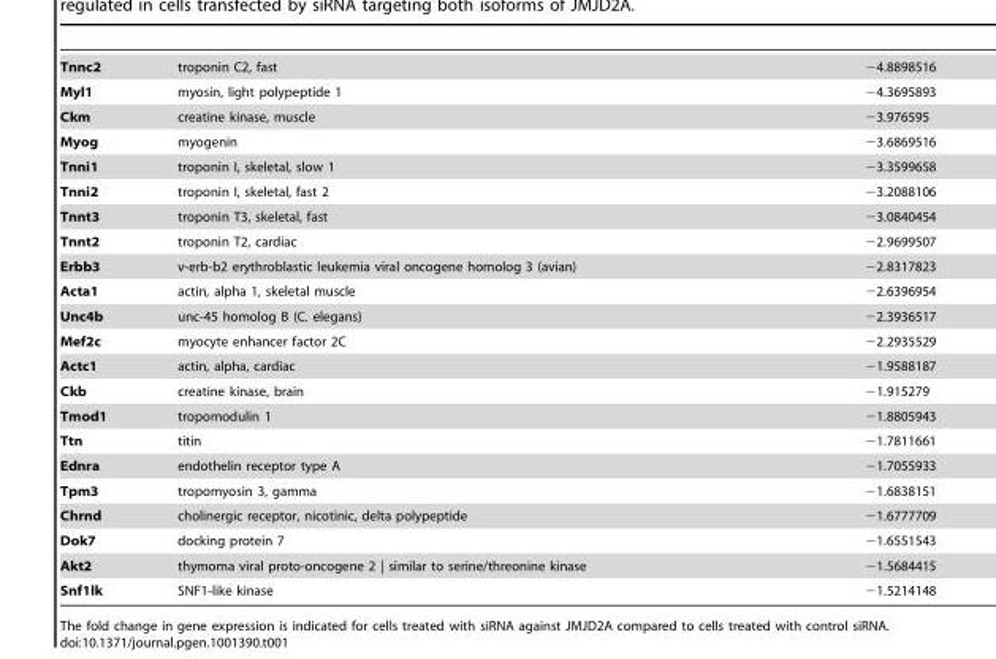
<table><tbody><tr><td>Tnnc2</td><td>troponin C2, fast</td><td>−4.8898516</td></tr><tr><td>Myl1</td><td>myosin, light polypeptide 1</td><td>−4.3695893</td></tr><tr><td>Ckm</td><td>creatine kinase, muscle</td><td>−3.976595</td></tr><tr><td>Myog</td><td>myogenin</td><td>−3.6869516</td></tr><tr><td>Tnni1</td><td>troponin I, skeletal, slow 1</td><td>−3.3599658</td></tr><tr><td>Tnni2</td><td>troponin I, skeletal, fast 2</td><td>−3.2088106</td></tr><tr><td>Tnnt3</td><td>troponin T3, skeletal, fast</td><td>−3.0840454</td></tr><tr><td>Tnnt2</td><td>troponin T2, cardiac</td><td>−2.9699507</td></tr><tr><td>Erbb3</td><td>v-erb-b2 erythroblastic leukemia viral oncogene homolog 3 (avian)</td><td>−2.8317823</td></tr><tr><td>Acta1</td><td>actin, alpha 1, skeletal muscle</td><td>−2.6396954</td></tr><tr><td>Unc4b</td><td>unc-45 homolog B (C. elegans)</td><td>−2.3936517</td></tr><tr><td>Mef2c</td><td>myocyte enhancer factor 2C</td><td>−2.2935529</td></tr><tr><td>Actc1</td><td>actin, alpha, cardiac</td><td>−1.9588187</td></tr><tr><td>Ckb</td><td>creatine kinase, brain</td><td>−1.915279</td></tr><tr><td>Tmod1</td><td>tropomodulin 1</td><td>−1.8805943</td></tr><tr><td>Ttn</td><td>titin</td><td>−1.7811661</td></tr><tr><td>Ednra</td><td>endothelin receptor type A</td><td>−1.7055933</td></tr><tr><td>Tpm3</td><td>tropomyosin 3, gamma</td><td>−1.6838151</td></tr><tr><td>Chrnd</td><td>cholinergic receptor, nicotinic, delta polypeptide</td><td>−1.6777709</td></tr><tr><td>Dok7</td><td>docking protein 7</td><td>−1.6551543</td></tr><tr><td>Akt2</td><td>thymoma viral proto-oncogene 2 | similar to serine/threonine kinase</td><td>−1.5684415</td></tr><tr><td>Snf1lk</td><td>SNF1-like kinase</td><td>−1.5214148</td></tr></tbody></table>